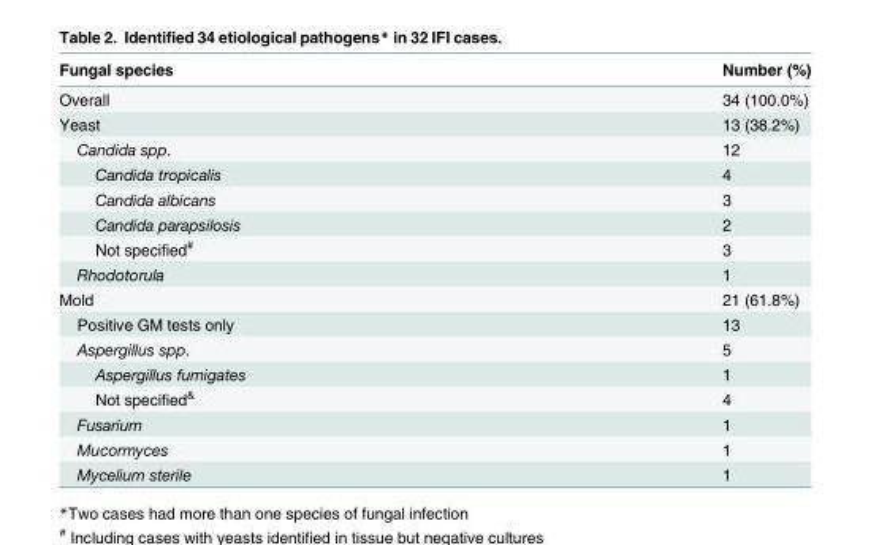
<table><thead><tr><td>Fungal species</td><td>Number (%)</td></tr></thead><tbody><tr><td>Overall</td><td>34 (100.0%)</td></tr><tr><td>Yeast</td><td>13 (38.2%)</td></tr><tr><td>Candida spp.</td><td>12</td></tr><tr><td>Candida tropicalis</td><td>4</td></tr><tr><td>Candida albicans</td><td>3</td></tr><tr><td>Candida parapsilosis</td><td>2</td></tr><tr><td>Not specified<sup>#</sup></td><td>3</td></tr><tr><td>Rhodotorula</td><td>1</td></tr><tr><td>Mold</td><td>21 (61.8%)</td></tr><tr><td>Positive GM tests only</td><td>13</td></tr><tr><td>Aspergillus spp.</td><td>5</td></tr><tr><td>Aspergillus fumigates</td><td>1</td></tr><tr><td>Not specified<sup>&amp;</sup></td><td>4</td></tr><tr><td>Fusarium</td><td>1</td></tr><tr><td>Mucormyces</td><td>1</td></tr><tr><td>Mycelium sterile</td><td>1</td></tr></tbody></table>